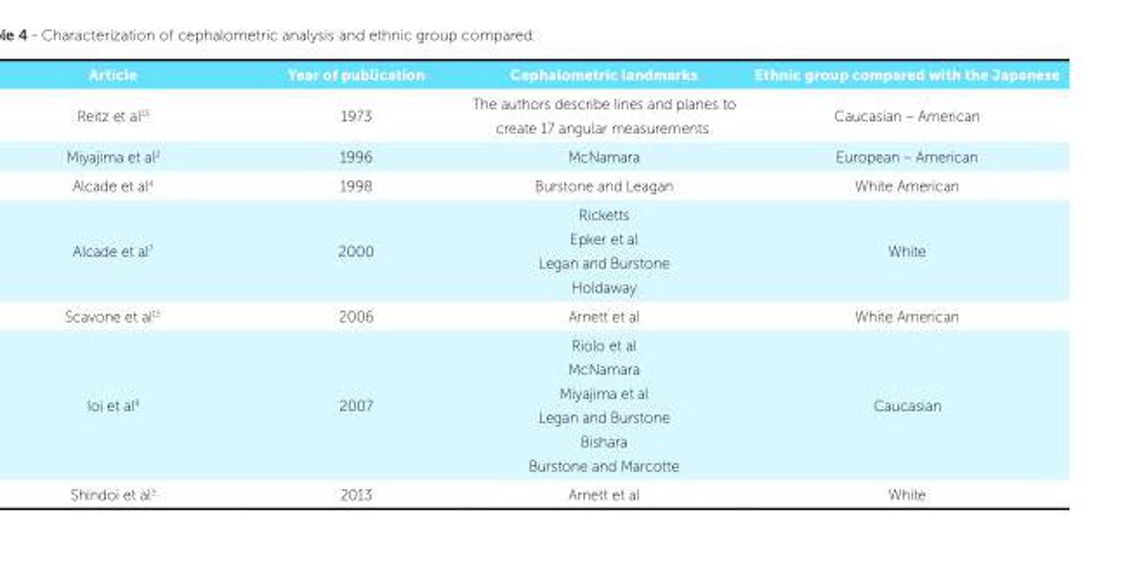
<table><thead><tr><td>Article</td><td>Year of publication</td><td>Cephalometric landmarks</td><td>Ethnic group compared with the Japanese</td></tr></thead><tbody><tr><td>Reitz et al<sup>13</sup></td><td>1973</td><td>The authors describe lines and planes to create 17 angular measurements.</td><td>Caucasian – American</td></tr><tr><td>Miyajima et al<sup>2</sup></td><td>1996</td><td>McNamara</td><td>European – American</td></tr><tr><td>Alcade et al<sup>4</sup></td><td>1998</td><td>Burstone and Leagan</td><td>White American</td></tr><tr><td>Alcade et al<sup>7</sup></td><td>2000</td><td>Ricketts Epker et al Legan and Burstone Holdaway</td><td>White</td></tr><tr><td>Scavone et al<sup>15</sup></td><td>2006</td><td>Arnett et al</td><td>White American</td></tr><tr><td>Ioi et al<sup>9</sup></td><td>2007</td><td>Riolo et al McNamara Miyajima et al Legan and Burstone Bishara Burstone and Marcotte</td><td>Caucasian</td></tr><tr><td>Shindoi et al<sup>3</sup></td><td>2013</td><td>Arnett et al</td><td>White</td></tr></tbody></table>